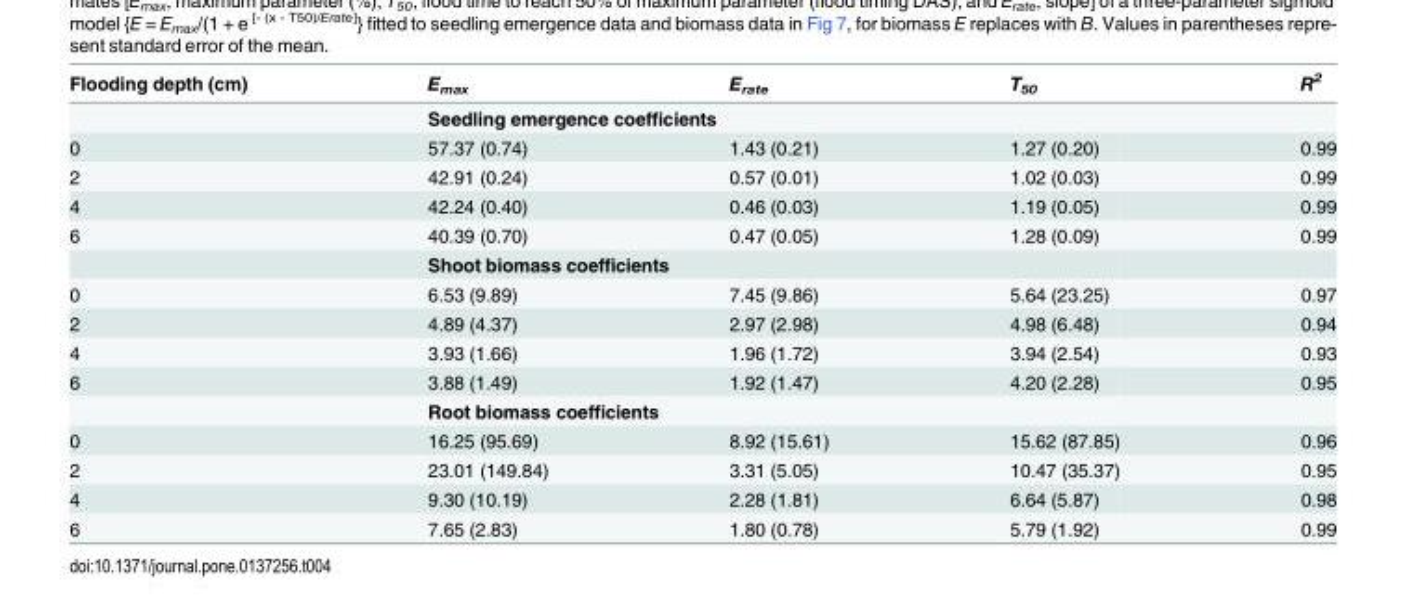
<table><thead><tr><td>Flooding depth (cm)</td><td>E<sub>max</sub></td><td>E<sub>rate</sub></td><td>T<sub>50</sub></td><td>R<sup>2</sup></td></tr></thead><tbody><tr><td></td><td colspan="3">Seedling emergence coefficients</td><td></td></tr><tr><td>0</td><td>57.37 (0.74)</td><td>1.43 (0.21)</td><td>1.27 (0.20)</td><td>0.99</td></tr><tr><td>2</td><td>42.91 (0.24)</td><td>0.57 (0.01)</td><td>1.02 (0.03)</td><td>0.99</td></tr><tr><td>4</td><td>42.24 (0.40)</td><td>0.46 (0.03)</td><td>1.19 (0.05)</td><td>0.99</td></tr><tr><td rowspan="2">6</td><td>40.39 (0.70)</td><td>0.47 (0.05)</td><td>1.28 (0.09)</td><td>0.99</td></tr><tr><td colspan="3">Shoot biomass coefficients</td><td></td></tr><tr><td>0</td><td>6.53 (9.89)</td><td>7.45 (9.86)</td><td>5.64 (23.25)</td><td>0.97</td></tr><tr><td>2</td><td>4.89 (4.37)</td><td>2.97 (2.98)</td><td>4.98 (6.48)</td><td>0.94</td></tr><tr><td>4</td><td>3.93 (1.66)</td><td>1.96 (1.72)</td><td>3.94 (2.54)</td><td>0.93</td></tr><tr><td rowspan="2">6</td><td>3.88 (1.49)</td><td>1.92 (1.47)</td><td>4.20 (2.28)</td><td>0.95</td></tr><tr><td colspan="3">Root biomass coefficients</td><td></td></tr><tr><td>0</td><td>16.25 (95.69)</td><td>8.92 (15.61)</td><td>15.62 (87.85)</td><td>0.96</td></tr><tr><td>2</td><td>23.01 (149.84)</td><td>3.31 (5.05)</td><td>10.47 (35.37)</td><td>0.95</td></tr><tr><td>4</td><td>9.30 (10.19)</td><td>2.28 (1.81)</td><td>6.64 (5.87)</td><td>0.98</td></tr><tr><td>6</td><td>7.65 (2.83)</td><td>1.80 (0.78)</td><td>5.79 (1.92)</td><td>0.99</td></tr></tbody></table>